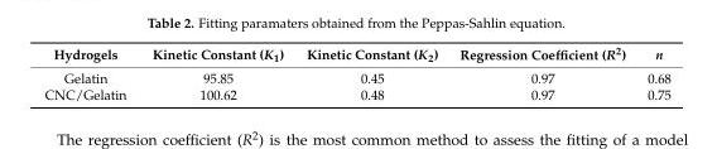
<table><thead><tr><td>Hydrogels</td><td>Kinetic Constant (K<sub>1</sub>)</td><td>Kinetic Constant (K<sub>2</sub>)</td><td>Regression Coefficient (R<sup>2</sup>)</td><td>n</td></tr></thead><tbody><tr><td>Gelatin</td><td>95.85</td><td>0.45</td><td>0.97</td><td>0.68</td></tr><tr><td>CNC/Gelatin</td><td>100.62</td><td>0.48</td><td>0.97</td><td>0.75</td></tr></tbody></table>